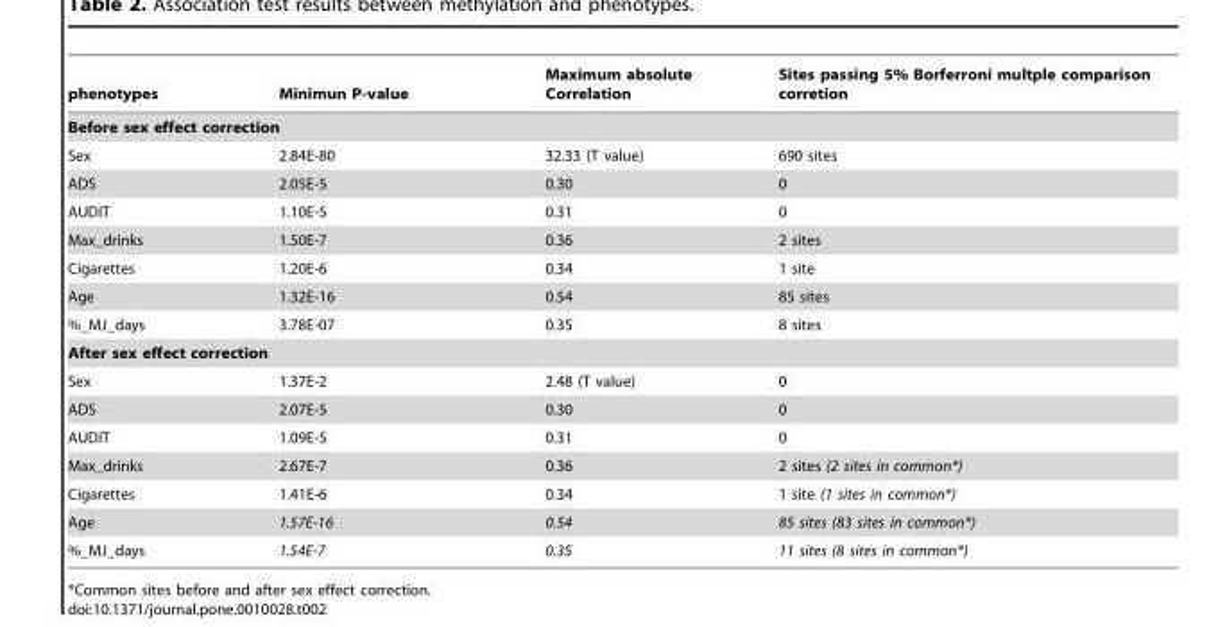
<table><thead><tr><td>phenotypes</td><td>Minimun P-value</td><td>Maximum absolute Correlation</td><td>Sites passing 5% Borferroni multple comparison corretion</td></tr></thead><tbody><tr><td colspan="4">Before sex effect correction</td></tr><tr><td>Sex</td><td>2.84E-80</td><td>32.33 (T value)</td><td>690 sites</td></tr><tr><td>ADS</td><td>2.05E-5</td><td>0.30</td><td>0</td></tr><tr><td>AUDIT</td><td>1.10E-5</td><td>0.31</td><td>0</td></tr><tr><td>Max_drinks</td><td>1.50E-7</td><td>0.36</td><td>2 sites</td></tr><tr><td>Cigarettes</td><td>1.20E-6</td><td>0.34</td><td>1 site</td></tr><tr><td>Age</td><td>1.32E-16</td><td>0.54</td><td>85 sites</td></tr><tr><td>%_MJ_days</td><td>3.78E-07</td><td>0.35</td><td>8 sites</td></tr><tr><td colspan="4">After sex effect correction</td></tr><tr><td>Sex</td><td>1.37E-2</td><td>2.48 (T value)</td><td>0</td></tr><tr><td>ADS</td><td>2.07E-5</td><td>0.30</td><td>0</td></tr><tr><td>AUDIT</td><td>1.09E-5</td><td>0.31</td><td>0</td></tr><tr><td>Max_drinks</td><td>2.67E-7</td><td>0.36</td><td>2 sites (2 sites in common*)</td></tr><tr><td>Cigarettes</td><td>1.41E-6</td><td>0.34</td><td>1 site (1 sites in common*)</td></tr><tr><td>Age</td><td>1.57E-16</td><td>0.54</td><td>85 sites (83 sites in common*)</td></tr><tr><td>%_MJ_days</td><td>1.54E-7</td><td>0.35</td><td>11 sites (8 sites in common*)</td></tr></tbody></table>